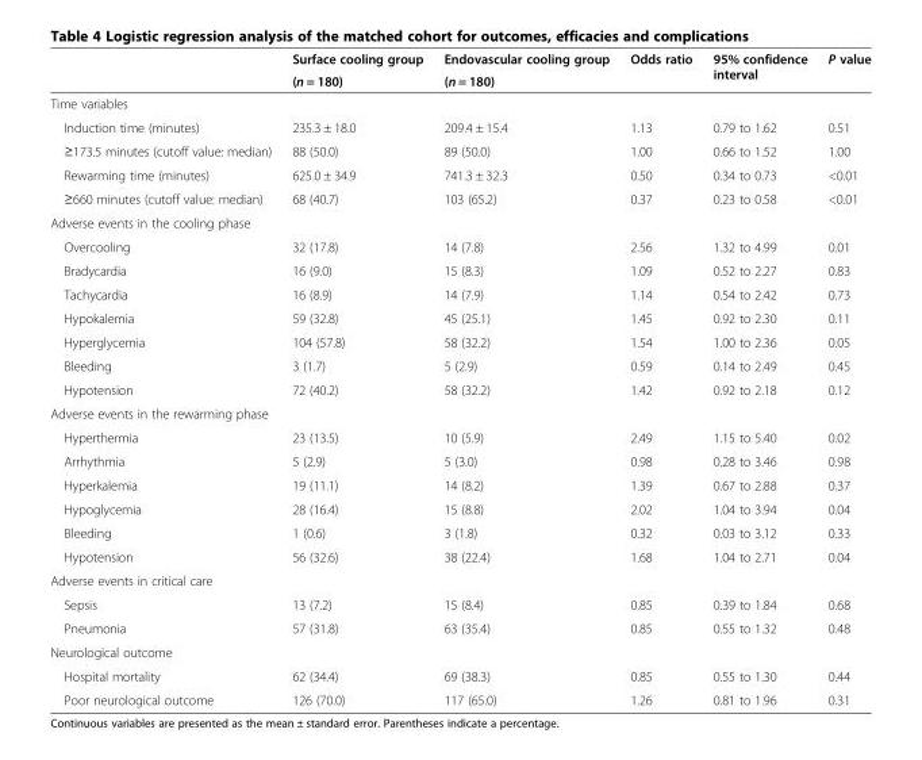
<table><thead><tr><td rowspan="2"></td><td rowspan="2">Surface cooling group (n = 180)</td><td rowspan="2">Endovascular cooling group (n = 180)</td><td rowspan="2">Odds ratio</td><td rowspan="2">95% confidence interval</td><td rowspan="2">P value</td></tr><tr></tr></thead><tbody><tr><td colspan="6">Time variables</td></tr><tr><td>Induction time (minutes)</td><td>235.3 ± 18.0</td><td>209.4 ± 15.4</td><td>1.13</td><td>0.79 to 1.62</td><td>0.51</td></tr><tr><td>≥173.5 minutes (cutoff value: median)</td><td>88 (50.0)</td><td>89 (50.0)</td><td>1.00</td><td>0.66 to 1.52</td><td>1.00</td></tr><tr><td>Rewarming time (minutes)</td><td>625.0 ± 34.9</td><td>741.3 ± 32.3</td><td>0.50</td><td>0.34 to 0.73</td><td>&lt;0.01</td></tr><tr><td>≥660 minutes (cutoff value: median)</td><td>68 (40.7)</td><td>103 (65.2)</td><td>0.37</td><td>0.23 to 0.58</td><td>&lt;0.01</td></tr><tr><td colspan="6">Adverse events in the cooling phase</td></tr><tr><td>Overcooling</td><td>32 (17.8)</td><td>14 (7.8)</td><td>2.56</td><td>1.32 to 4.99</td><td>0.01</td></tr><tr><td>Bradycardia</td><td>16 (9.0)</td><td>15 (8.3)</td><td>1.09</td><td>0.52 to 2.27</td><td>0.83</td></tr><tr><td>Tachycardia</td><td>16 (8.9)</td><td>14 (7.9)</td><td>1.14</td><td>0.54 to 2.42</td><td>0.73</td></tr><tr><td>Hypokalemia</td><td>59 (32.8)</td><td>45 (25.1)</td><td>1.45</td><td>0.92 to 2.30</td><td>0.11</td></tr><tr><td>Hyperglycemia</td><td>104 (57.8)</td><td>58 (32.2)</td><td>1.54</td><td>1.00 to 2.36</td><td>0.05</td></tr><tr><td>Bleeding</td><td>3 (1.7)</td><td>5 (2.9)</td><td>0.59</td><td>0.14 to 2.49</td><td>0.45</td></tr><tr><td>Hypotension</td><td>72 (40.2)</td><td>58 (32.2)</td><td>1.42</td><td>0.92 to 2.18</td><td>0.12</td></tr><tr><td colspan="6">Adverse events in the rewarming phase</td></tr><tr><td>Hyperthermia</td><td>23 (13.5)</td><td>10 (5.9)</td><td>2.49</td><td>1.15 to 5.40</td><td>0.02</td></tr><tr><td>Arrhythmia</td><td>5 (2.9)</td><td>5 (3.0)</td><td>0.98</td><td>0.28 to 3.46</td><td>0.98</td></tr><tr><td>Hyperkalemia</td><td>19 (11.1)</td><td>14 (8.2)</td><td>1.39</td><td>0.67 to 2.88</td><td>0.37</td></tr><tr><td>Hypoglycemia</td><td>28 (16.4)</td><td>15 (8.8)</td><td>2.02</td><td>1.04 to 3.94</td><td>0.04</td></tr><tr><td>Bleeding</td><td>1 (0.6)</td><td>3 (1.8)</td><td>0.32</td><td>0.03 to 3.12</td><td>0.33</td></tr><tr><td>Hypotension</td><td>56 (32.6)</td><td>38 (22.4)</td><td>1.68</td><td>1.04 to 2.71</td><td>0.04</td></tr><tr><td colspan="6">Adverse events in critical care</td></tr><tr><td>Sepsis</td><td>13 (7.2)</td><td>15 (8.4)</td><td>0.85</td><td>0.39 to 1.84</td><td>0.68</td></tr><tr><td>Pneumonia</td><td>57 (31.8)</td><td>63 (35.4)</td><td>0.85</td><td>0.55 to 1.32</td><td>0.48</td></tr><tr><td colspan="6">Neurological outcome</td></tr><tr><td>Hospital mortality</td><td>62 (34.4)</td><td>69 (38.3)</td><td>0.85</td><td>0.55 to 1.30</td><td>0.44</td></tr><tr><td>Poor neurological outcome</td><td>126 (70.0)</td><td>117 (65.0)</td><td>1.26</td><td>0.81 to 1.96</td><td>0.31</td></tr></tbody></table>